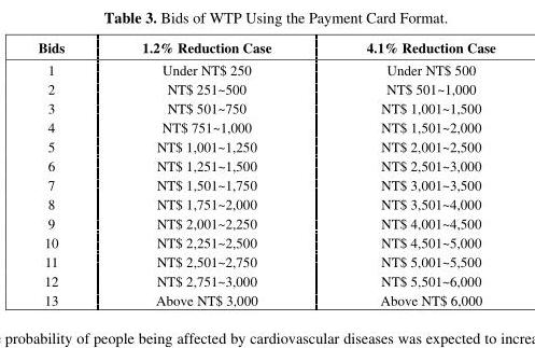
<table><thead><tr><td>Bids</td><td>1.2% Reduction Case</td><td>4.1% Reduction Case</td></tr></thead><tbody><tr><td>1</td><td>Under NT$ 250</td><td>Under NT$ 500</td></tr><tr><td>2</td><td>NT$ 251~500</td><td>NT$ 501~1,000</td></tr><tr><td>3</td><td>NT$ 501~750</td><td>NT$ 1,001~1,500</td></tr><tr><td>4</td><td>NT$ 751~1,000</td><td>NT$ 1,501~2,000</td></tr><tr><td>5</td><td>NT$ 1,001~1,250</td><td>NT$ 2,001~2,500</td></tr><tr><td>6</td><td>NT$ 1,251~1,500</td><td>NT$ 2,501~3,000</td></tr><tr><td>7</td><td>NT$ 1,501~1,750</td><td>NT$ 3,001~3,500</td></tr><tr><td>8</td><td>NT$ 1,751~2,000</td><td>NT$ 3,501~4,000</td></tr><tr><td>9</td><td>NT$ 2,001~2,250</td><td>NT$ 4,001~4,500</td></tr><tr><td>10</td><td>NT$ 2,251~2,500</td><td>NT$ 4,501~5,000</td></tr><tr><td>11</td><td>NT$ 2,501~2,750</td><td>NT$ 5,001~5,500</td></tr><tr><td>12</td><td>NT$ 2,751~3,000</td><td>NT$ 5,501~6,000</td></tr><tr><td>13</td><td>Above NT$ 3,000</td><td>Above NT$ 6,000</td></tr></tbody></table>